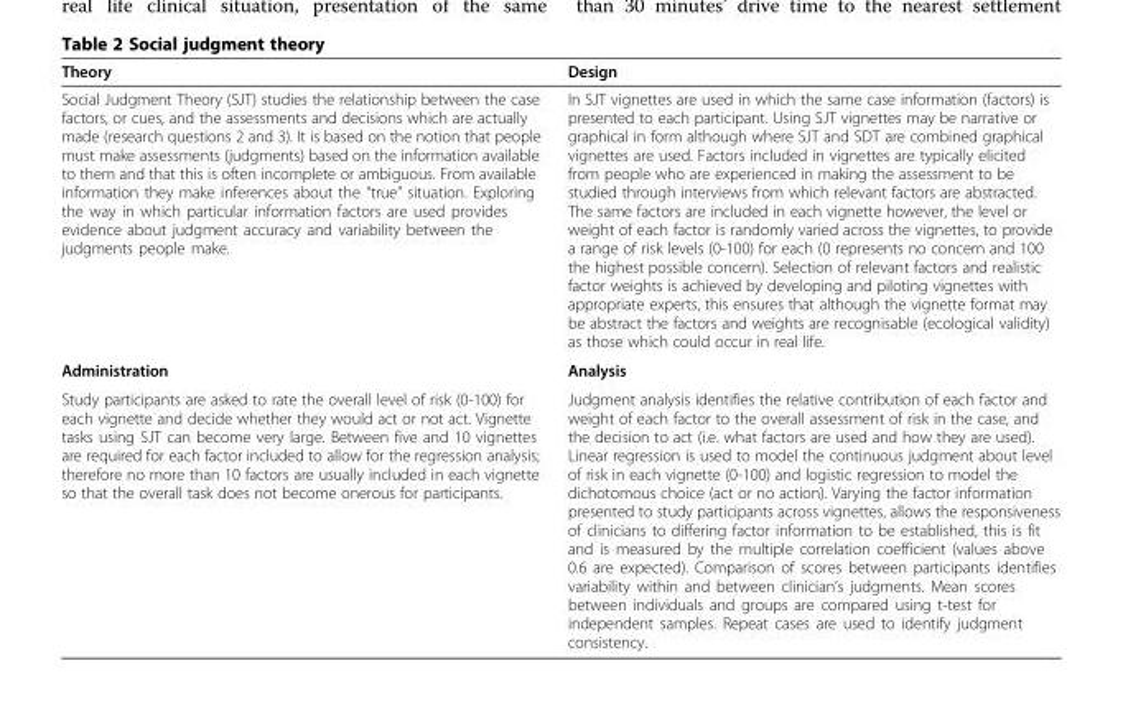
<table><thead><tr><td>Theory</td><td>Design</td></tr></thead><tbody><tr><td>Social Judgment Theory (SJT) studies the relationship between the case factors, or cues, and the assessments and decisions which are actually made (research questions 2 and 3). It is based on the notion that people must make assessments (judgments) based on the information available to them and that this is often incomplete or ambiguous. From available information they make inferences about the “true” situation. Exploring the way in which particular information factors are used provides evidence about judgment accuracy and variability between the judgments people make.</td><td>In SJT vignettes are used in which the same case information (factors) is presented to each participant. Using SJT vignettes may be narrative or graphical in form although where SJT and SDT are combined graphical vignettes are used. Factors included in vignettes are typically elicited from people who are experienced in making the assessment to be studied through interviews from which relevant factors are abstracted. The same factors are included in each vignette however, the level or weight of each factor is randomly varied across the vignettes, to provide a range of risk levels (0-100) for each (0 represents no concern and 100 the highest possible concern). Selection of relevant factors and realistic factor weights is achieved by developing and piloting vignettes with appropriate experts, this ensures that although the vignette format may be abstract the factors and weights are recognisable (ecological validity) as those which could occur in real life.</td></tr><tr><td>Administration</td><td>Analysis</td></tr><tr><td>Study participants are asked to rate the overall level of risk (0-100) for each vignette and decide whether they would act or not act. Vignette tasks using SJT can become very large. Between five and 10 vignettes are required for each factor included to allow for the regression analysis; therefore no more than 10 factors are usually included in each vignette so that the overall task does not become onerous for participants.</td><td>Judgment analysis identifies the relative contribution of each factor and weight of each factor to the overall assessment of risk in the case, and the decision to act (i.e. what factors are used and how they are used). Linear regression is used to model the continuous judgment about level of risk in each vignette (0-100) and logistic regression to model the dichotomous choice (act or no action). Varying the factor information presented to study participants across vignettes, allows the responsiveness of clinicians to differing factor information to be established, this is fit and is measured by the multiple correlation coefficient (values above 0.6 are expected). Comparison of scores between participants identifies variability within and between clinician’s judgments. Mean scores between individuals and groups are compared using t-test for independent samples. Repeat cases are used to identify judgment consistency.</td></tr></tbody></table>